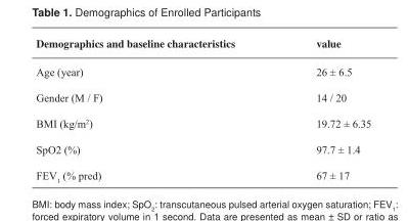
<table><thead><tr><td>Demographics and baseline characteristics</td><td>value</td></tr></thead><tbody><tr><td>Age (year)</td><td>26 ± 6.5</td></tr><tr><td>Gender (M / F)</td><td>14 / 20</td></tr><tr><td>BMI (kg/m<sup>2</sup>)</td><td>19.72 ± 6.35</td></tr><tr><td>SpO<sub>2</sub> (%)</td><td>97.7 ± 1.4</td></tr><tr><td>FEV<sub>1</sub> (% pred)</td><td>67 ± 17</td></tr></tbody></table>